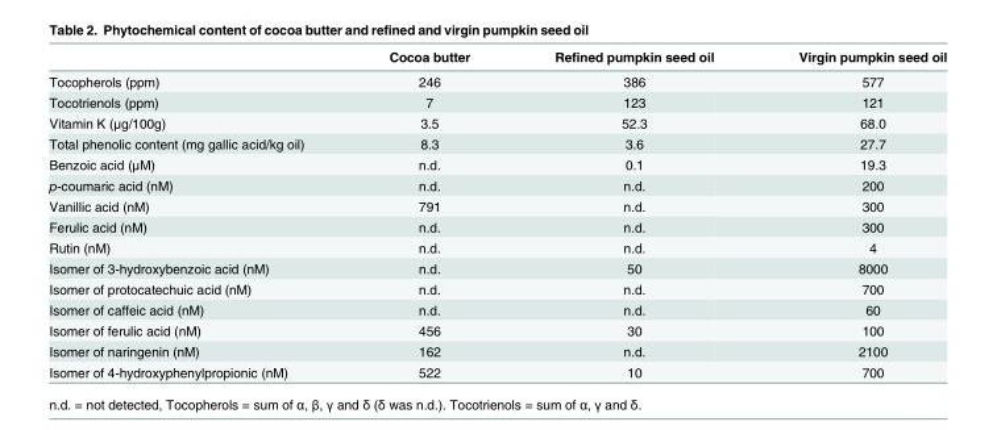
<table><thead><tr><td></td><td>Cocoa butter</td><td>Refined pumpkin seed oil</td><td>Virgin pumpkin seed oil</td></tr></thead><tbody><tr><td>Tocopherols (ppm)</td><td>246</td><td>386</td><td>577</td></tr><tr><td>Tocotrienols (ppm)</td><td>7</td><td>123</td><td>121</td></tr><tr><td>Vitamin K (μg/100g)</td><td>3.5</td><td>52.3</td><td>68.0</td></tr><tr><td>Total phenolic content (mg gallic acid/kg oil)</td><td>8.3</td><td>3.6</td><td>27.7</td></tr><tr><td>Benzoic acid (μM)</td><td>n.d.</td><td>0.1</td><td>19.3</td></tr><tr><td>p-coumaric acid (nM)</td><td>n.d.</td><td>n.d.</td><td>200</td></tr><tr><td>Vanillic acid (nM)</td><td>791</td><td>n.d.</td><td>300</td></tr><tr><td>Ferulic acid (nM)</td><td>n.d.</td><td>n.d.</td><td>300</td></tr><tr><td>Rutin (nM)</td><td>n.d.</td><td>n.d.</td><td>4</td></tr><tr><td>Isomer of 3-hydroxybenzoic acid (nM)</td><td>n.d.</td><td>50</td><td>8000</td></tr><tr><td>Isomer of protocatechuic acid (nM)</td><td>n.d.</td><td>n.d.</td><td>700</td></tr><tr><td>Isomer of caffeic acid (nM)</td><td>n.d.</td><td>n.d.</td><td>60</td></tr><tr><td>Isomer of ferulic acid (nM)</td><td>456</td><td>30</td><td>100</td></tr><tr><td>Isomer of naringenin (nM)</td><td>162</td><td>n.d.</td><td>2100</td></tr><tr><td>Isomer of 4-hydroxyphenylpropionic (nM)</td><td>522</td><td>10</td><td>700</td></tr></tbody></table>